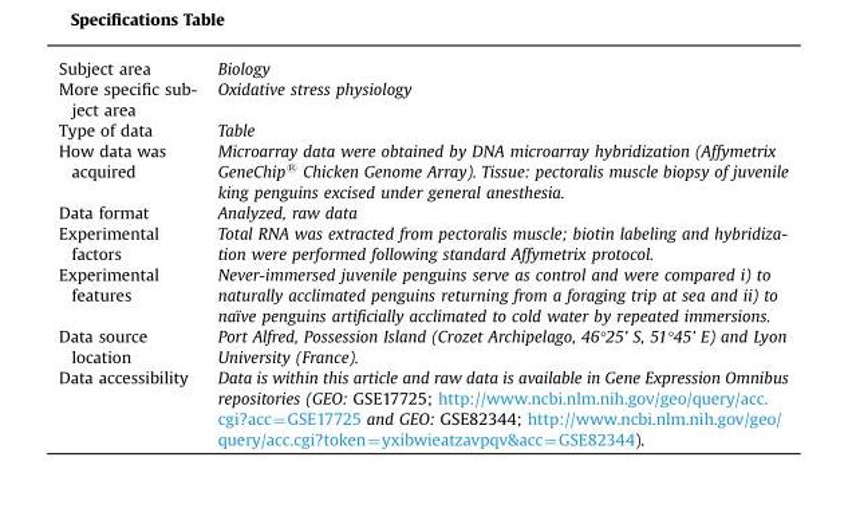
<table><tbody><tr><td>Subject area</td><td>Biology</td></tr><tr><td>More specific sub- ject area</td><td>Oxidative stress physiology</td></tr><tr><td>Type of data</td><td>Table</td></tr><tr><td>How data was acquired</td><td>Microarray data were obtained by DNA microarray hybridization (Affymetrix GeneChip® Chicken Genome Array). Tissue: pectoralis muscle biopsy of juvenile king penguins excised under general anesthesia.</td></tr><tr><td>Data format</td><td>Analyzed, raw data</td></tr><tr><td>Experimental factors</td><td>Total RNA was extracted from pectoralis muscle; biotin labeling and hybridiza- tion were performed following standard Affymetrix protocol.</td></tr><tr><td>Experimental features</td><td>Never-immersed juvenile penguins serve as control and were compared i) to naturally acclimated penguins returning from a foraging trip at sea and ii) to naïve penguins artificially acclimated to cold water by repeated immersions.</td></tr><tr><td>Data source location</td><td>Port Alfred, Possession Island (Crozet Archipelago, 46°25’ S, 51°45’ E) and Lyon University (France).</td></tr><tr><td>Data accessibility</td><td>Data is within this article and raw data is available in Gene Expression Omnibus repositories (GEO: GSE17725; http://www.ncbi.nlm.nih.gov/geo/query/acc. cgi?acc=GSE17725 and GEO: GSE82344; http://www.ncbi.nlm.nih.gov/geo/ query/acc.cgi?token=yxibwieatzavpqv&amp;acc=GSE82344).</td></tr></tbody></table>